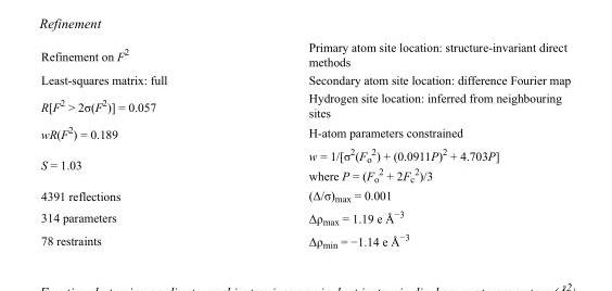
<table><tbody><tr><td>Refinement on F<sup>2</sup></td><td>Primary atom site location: structure-invariant direct methods</td></tr><tr><td>Least-squares matrix: full</td><td>Secondary atom site location: difference Fourier map</td></tr><tr><td>R[F<sup>2</sup> &gt; 2σ(F<sup>2</sup>)] = 0.057</td><td>Hydrogen site location: inferred from neighbouring sites</td></tr><tr><td>wR(F<sup>2</sup>) = 0.189</td><td>H-atom parameters constrained</td></tr><tr><td>S = 1.03</td><td>w = 1/[σ<sup>2</sup>(F<sub>o</sub> <sup>2</sup>) + (0.0911P)<sup>2</sup> + 4.703P] where P = (F<sub>o</sub> <sup>2</sup> + 2F<sub>c</sub> <sup>2</sup>)/3</td></tr><tr><td>4391 reflections</td><td>(Δ/σ)<sub>max</sub> = 0.001</td></tr><tr><td>314 parameters</td><td>Δρ<sub>max</sub> = 1.19 e Å<sup>−3</sup></td></tr><tr><td>78 restraints</td><td>Δρ<sub>min</sub> = −1.14 e Å<sup>−3</sup></td></tr></tbody></table>